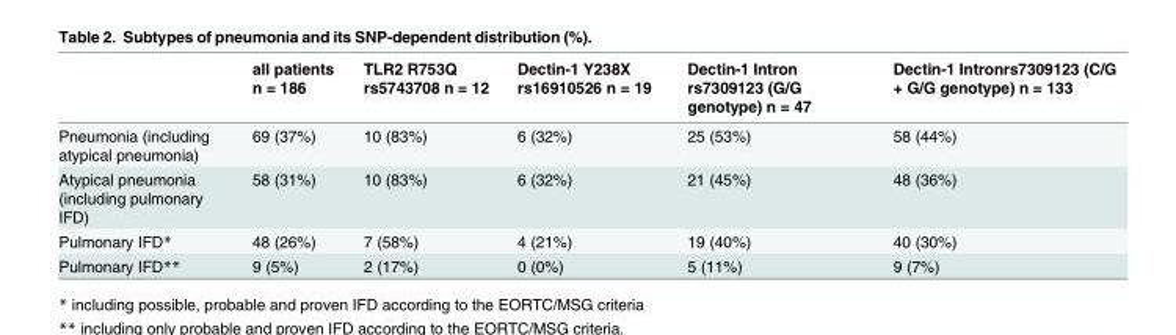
<table><thead><tr><td></td><td>all patients n = 186</td><td>TLR2 R753Q rs5743708 n = 12</td><td>Dectin-1 Y238X rs16910526 n = 19</td><td>Dectin-1 Intron rs7309123 (G/G genotype) n = 47</td><td>Dectin-1 Intronrs7309123 (C/G + G/G genotype) n = 133</td></tr></thead><tbody><tr><td>Pneumonia (including atypical pneumonia)</td><td>69 (37%)</td><td>10 (83%)</td><td>6 (32%)</td><td>25 (53%)</td><td>58 (44%)</td></tr><tr><td>Atypical pneumonia (including pulmonary IFD)</td><td>58 (31%)</td><td>10 (83%)</td><td>6 (32%)</td><td>21 (45%)</td><td>48 (36%)</td></tr><tr><td>Pulmonary IFD*</td><td>48 (26%)</td><td>7 (58%)</td><td>4 (21%)</td><td>19 (40%)</td><td>40 (30%)</td></tr><tr><td>Pulmonary IFD**</td><td>9 (5%)</td><td>2 (17%)</td><td>0 (0%)</td><td>5 (11%)</td><td>9 (7%)</td></tr></tbody></table>